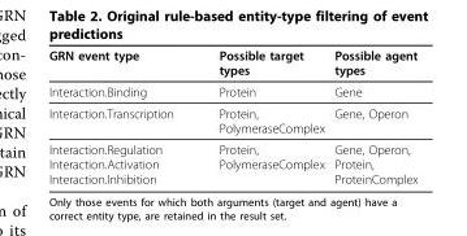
<table><thead><tr><td>GRN event type</td><td>Possible target types</td><td>Possible agent types</td></tr></thead><tbody><tr><td>Interaction.Binding</td><td>Protein</td><td>Gene</td></tr><tr><td>Interaction.Transcription</td><td>Protein, PolymeraseComplex</td><td>Gene, Operon</td></tr><tr><td>Interaction.Regulation Interaction.Activation Interaction.Inhibition</td><td>Protein, PolymeraseComplex</td><td>Gene, Operon, Protein, ProteinComplex</td></tr></tbody></table>